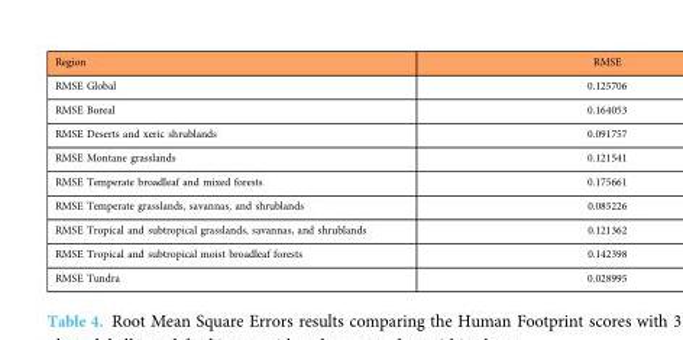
<table><thead><tr><td>Region</td><td>RMSE</td></tr></thead><tbody><tr><td>RMSE Global</td><td>0.125706</td></tr><tr><td>RMSE Boreal</td><td>0.164053</td></tr><tr><td>RMSE Deserts and xeric shrublands</td><td>0.091757</td></tr><tr><td>RMSE Montane grasslands</td><td>0.121541</td></tr><tr><td>RMSE Temperate broadleaf and mixed forests</td><td>0.175661</td></tr><tr><td>RMSE Temperate grasslands, savannas, and shrublands</td><td>0.085226</td></tr><tr><td>RMSE Tropical and subtropical grasslands, savannas, and shrublands</td><td>0.121362</td></tr><tr><td>RMSE Tropical and subtropical moist broadleaf forests</td><td>0.142398</td></tr><tr><td>RMSE Tundra</td><td>0.028995</td></tr></tbody></table>